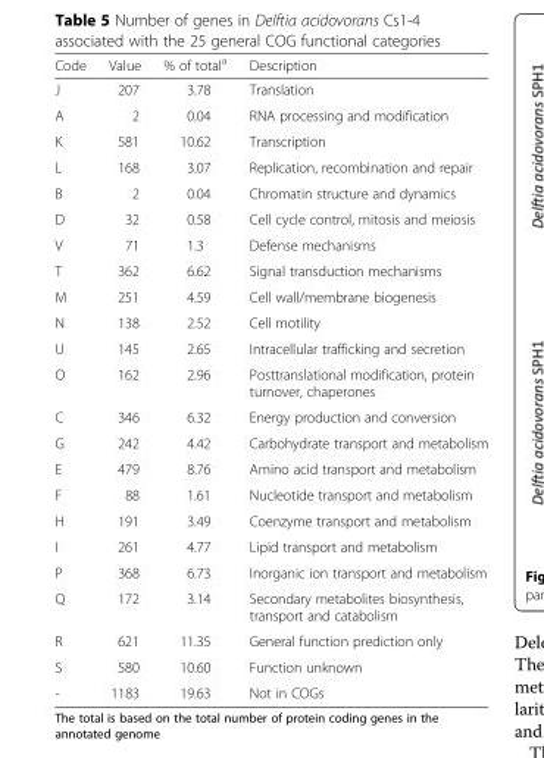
<table><thead><tr><td>Code</td><td>Value</td><td>% of total<sup>a</sup></td><td>Description</td></tr></thead><tbody><tr><td>J</td><td>207</td><td>3.78</td><td>Translation</td></tr><tr><td>A</td><td>2</td><td>0.04</td><td>RNA processing and modification</td></tr><tr><td>K</td><td>581</td><td>10.62</td><td>Transcription</td></tr><tr><td>L</td><td>168</td><td>3.07</td><td>Replication, recombination and repair</td></tr><tr><td>B</td><td>2</td><td>0.04</td><td>Chromatin structure and dynamics</td></tr><tr><td>D</td><td>32</td><td>0.58</td><td>Cell cycle control, mitosis and meiosis</td></tr><tr><td>V</td><td>71</td><td>1.3</td><td>Defense mechanisms</td></tr><tr><td>T</td><td>362</td><td>6.62</td><td>Signal transduction mechanisms</td></tr><tr><td>M</td><td>251</td><td>4.59</td><td>Cell wall/membrane biogenesis</td></tr><tr><td>N</td><td>138</td><td>2.52</td><td>Cell motility</td></tr><tr><td>U</td><td>145</td><td>2.65</td><td>Intracellular trafficking and secretion</td></tr><tr><td>O</td><td>162</td><td>2.96</td><td>Posttranslational modification, protein turnover, chaperones</td></tr><tr><td>C</td><td>346</td><td>6.32</td><td>Energy production and conversion</td></tr><tr><td>G</td><td>242</td><td>4.42</td><td>Carbohydrate transport and metabolism</td></tr><tr><td>E</td><td>479</td><td>8.76</td><td>Amino acid transport and metabolism</td></tr><tr><td>F</td><td>88</td><td>1.61</td><td>Nucleotide transport and metabolism</td></tr><tr><td>H</td><td>191</td><td>3.49</td><td>Coenzyme transport and metabolism</td></tr><tr><td>I</td><td>261</td><td>4.77</td><td>Lipid transport and metabolism</td></tr><tr><td>P</td><td>368</td><td>6.73</td><td>Inorganic ion transport and metabolism</td></tr><tr><td>Q</td><td>172</td><td>3.14</td><td>Secondary metabolites biosynthesis, transport and catabolism</td></tr><tr><td>R</td><td>621</td><td>11.35</td><td>General function prediction only</td></tr><tr><td>S</td><td>580</td><td>10.60</td><td>Function unknown</td></tr><tr><td>-</td><td>1183</td><td>19.63</td><td>Not in COGs</td></tr></tbody></table>